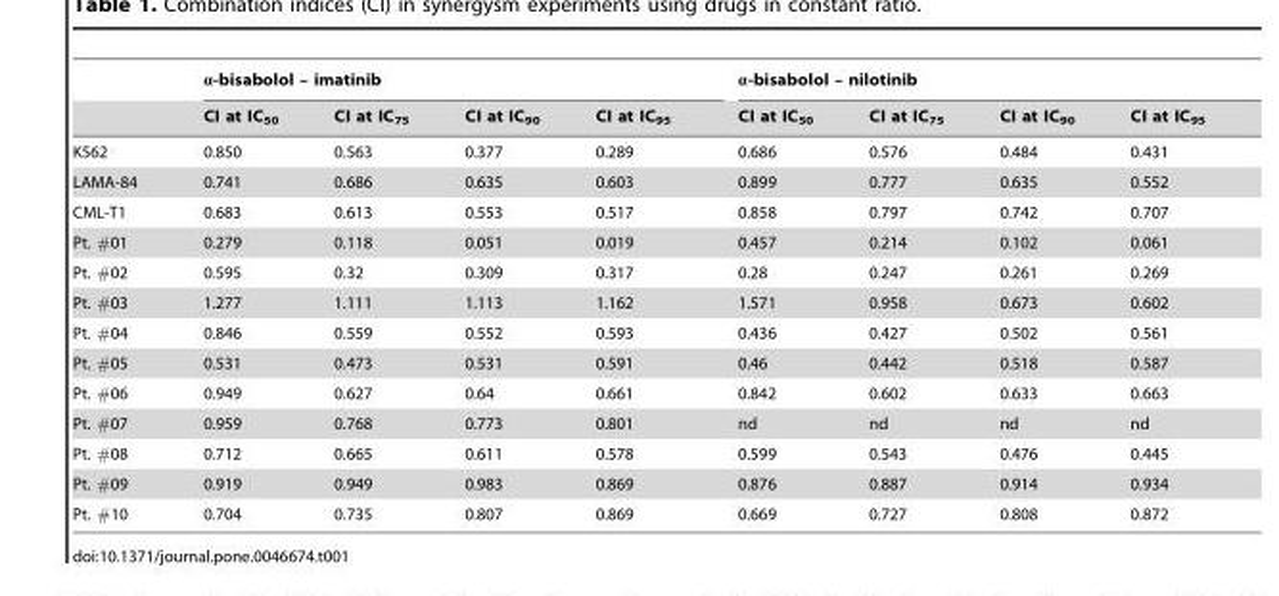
<table><thead><tr><td rowspan="2"></td><td colspan="4">α-bisabolol – imatinib</td><td colspan="4">α-bisabolol – nilotinib</td></tr><tr><td>CI at IC<sub>50</sub></td><td>CI at IC<sub>75</sub></td><td>CI at IC<sub>90</sub></td><td>CI at IC<sub>95</sub></td><td>CI at IC<sub>50</sub></td><td>CI at IC<sub>75</sub></td><td>CI at IC<sub>90</sub></td><td>CI at IC<sub>95</sub></td></tr></thead><tbody><tr><td>K562</td><td>0.850</td><td>0.563</td><td>0.377</td><td>0.289</td><td>0.686</td><td>0.576</td><td>0.484</td><td>0.431</td></tr><tr><td>LAMA-84</td><td>0.741</td><td>0.686</td><td>0.635</td><td>0.603</td><td>0.899</td><td>0.777</td><td>0.635</td><td>0.552</td></tr><tr><td>CML-T1</td><td>0.683</td><td>0.613</td><td>0.553</td><td>0.517</td><td>0.858</td><td>0.797</td><td>0.742</td><td>0.707</td></tr><tr><td>Pt. #01</td><td>0.279</td><td>0.118</td><td>0.051</td><td>0.019</td><td>0.457</td><td>0.214</td><td>0.102</td><td>0.061</td></tr><tr><td>Pt. #02</td><td>0.595</td><td>0.32</td><td>0.309</td><td>0.317</td><td>0.28</td><td>0.247</td><td>0.261</td><td>0.269</td></tr><tr><td>Pt. #03</td><td>1.277</td><td>1.111</td><td>1.113</td><td>1.162</td><td>1.571</td><td>0.958</td><td>0.673</td><td>0.602</td></tr><tr><td>Pt. #04</td><td>0.846</td><td>0.559</td><td>0.552</td><td>0.593</td><td>0.436</td><td>0.427</td><td>0.502</td><td>0.561</td></tr><tr><td>Pt. #05</td><td>0.531</td><td>0.473</td><td>0.531</td><td>0.591</td><td>0.46</td><td>0.442</td><td>0.518</td><td>0.587</td></tr><tr><td>Pt. #06</td><td>0.949</td><td>0.627</td><td>0.64</td><td>0.661</td><td>0.842</td><td>0.602</td><td>0.633</td><td>0.663</td></tr><tr><td>Pt. #07</td><td>0.959</td><td>0.768</td><td>0.773</td><td>0.801</td><td>nd</td><td>nd</td><td>nd</td><td>nd</td></tr><tr><td>Pt. #08</td><td>0.712</td><td>0.665</td><td>0.611</td><td>0.578</td><td>0.599</td><td>0.543</td><td>0.476</td><td>0.445</td></tr><tr><td>Pt. #09</td><td>0.919</td><td>0.949</td><td>0.983</td><td>0.869</td><td>0.876</td><td>0.887</td><td>0.914</td><td>0.934</td></tr><tr><td>Pt. #10</td><td>0.704</td><td>0.735</td><td>0.807</td><td>0.869</td><td>0.669</td><td>0.727</td><td>0.808</td><td>0.872</td></tr></tbody></table>